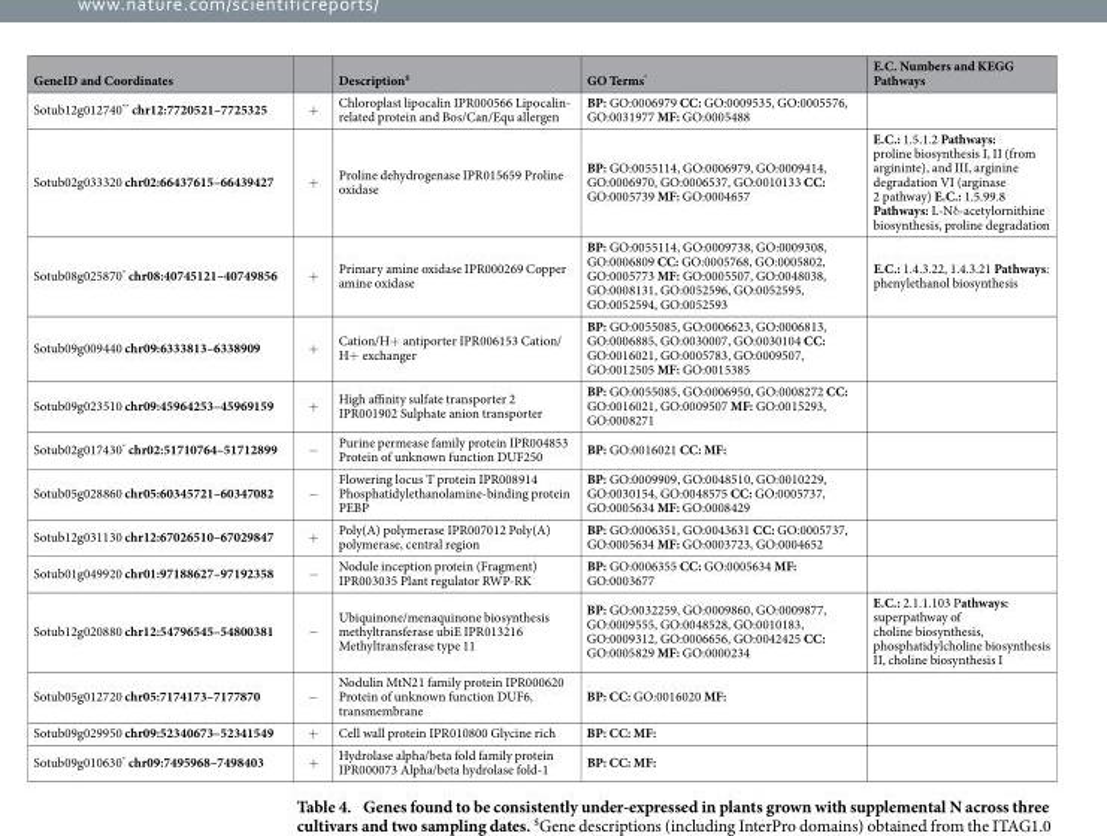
<table><thead><tr><td>GeneID and Coordinates</td><td></td><td>Description$</td><td>GO Terms°</td><td>E.C. Numbers and KEGG Pathways</td></tr></thead><tbody><tr><td>Sotub12g012740** chr12:7720521–7725325</td><td>+</td><td>Chloroplast lipocalin IPR000566 Lipocalin- related protein and Bos/Can/Equ allergen</td><td>BP: GO:0006979 CC: GO:0009535, GO:0005576, GO:0031977 MF: GO:0005488</td><td></td></tr><tr><td>Sotub02g033320 chr02:66437615–66439427</td><td>+</td><td>Proline dehydrogenase IPR015659 Proline oxidase</td><td>BP: GO:0055114, GO:0006979, GO:0009414, GO:0006970, GO:0006537, GO:0010133 CC: GO:0005739 MF: GO:0004657</td><td>E.C.: 1.5.1.2 Pathways: proline biosynthesis I, II (from argininte), and III, arginine degradation VI (arginase 2 pathway) E.C.: 1.5.99.8 Pathways: L-Nδ -acetylornithine biosynthesis, proline degradation</td></tr><tr><td>Sotub08g025870* chr08:40745121–40749856</td><td>+</td><td>Primary amine oxidase IPR000269 Copper amine oxidase</td><td>BP: GO:0055114, GO:0009738, GO:0009308, GO:0006809 CC: GO:0005768, GO:0005802, GO:0005773 MF: GO:0005507, GO:0048038, GO:0008131, GO:0052596, GO:0052595, GO:0052594, GO:0052593</td><td>E.C.: 1.4.3.22, 1.4.3.21 Pathways: phenylethanol biosynthesis</td></tr><tr><td>Sotub09g009440 chr09:6333813–6338909</td><td>+</td><td>Cation/H+ antiporter IPR006153 Cation/ H+ exchanger</td><td>BP: GO:0055085, GO:0006623, GO:0006813, GO:0006885, GO:0030007, GO:0030104 CC: GO:0016021, GO:0005783, GO:0009507, GO:0012505 MF: GO:0015385</td><td></td></tr><tr><td>Sotub09g023510 chr09:45964253–45969159</td><td>+</td><td>High affinity sulfate transporter 2 IPR001902 Sulphate anion transporter</td><td>BP: GO:0055085, GO:0006950, GO:0008272 CC: GO:0016021, GO:0009507 MF: GO:0015293, GO:0008271</td><td></td></tr><tr><td>Sotub02g017430* chr02:51710764–51712899</td><td>−</td><td>Purine permease family protein IPR004853 Protein of unknown function DUF250</td><td>BP: GO:0016021 CC: MF:</td><td></td></tr><tr><td>Sotub05g028860 chr05:60345721–60347082</td><td>−</td><td>Flowering locus T protein IPR008914 Phosphatidylethanolamine-binding protein PEBP</td><td>BP: GO:0009909, GO:0048510, GO:0010229, GO:0030154, GO:0048575 CC: GO:0005737, GO:0005634 MF: GO:0008429</td><td></td></tr><tr><td>Sotub12g031130 chr12:67026510–67029847</td><td>+</td><td>Poly(A) polymerase IPR007012 Poly(A) polymerase, central region</td><td>BP: GO:0006351, GO:0043631 CC: GO:0005737, GO:0005634 MF: GO:0003723, GO:0004652</td><td></td></tr><tr><td>Sotub01g049920 chr01:97188627–97192358</td><td>−</td><td>Nodule inception protein (Fragment) IPR003035 Plant regulator RWP-RK</td><td>BP: GO:0006355 CC: GO:0005634 MF: GO:0003677</td><td></td></tr><tr><td>Sotub12g020880 chr12:54796545–54800381</td><td>−</td><td>Ubiquinone/menaquinone biosynthesis methyltransferase ubiE IPR013216 Methyltransferase type 11</td><td>BP: GO:0032259, GO:0009860, GO:0009877, GO:0009555, GO:0048528, GO:0010183, GO:0009312, GO:0006656, GO:0042425 CC: GO:0005829 MF: GO:0000234</td><td>E.C.: 2.1.1.103 Pathways: superpathway of choline biosynthesis, phosphatidylcholine biosynthesis II, choline biosynthesis I</td></tr><tr><td>Sotub05g012720 chr05:7174173–7177870</td><td>−</td><td>Nodulin MtN21 family protein IPR000620 Protein of unknown function DUF6, transmembrane</td><td>BP: CC: GO:0016020 MF:</td><td></td></tr><tr><td>Sotub09g029950 chr09:52340673–52341549</td><td>+</td><td>Cell wall protein IPR010800 Glycine rich</td><td>BP: CC: MF:</td><td></td></tr><tr><td>Sotub09g010630* chr09:7495968–7498403</td><td>+</td><td>Hydrolase alpha/beta fold family protein IPR000073 Alpha/beta hydrolase fold-1</td><td>BP: CC: MF:</td><td></td></tr></tbody></table>